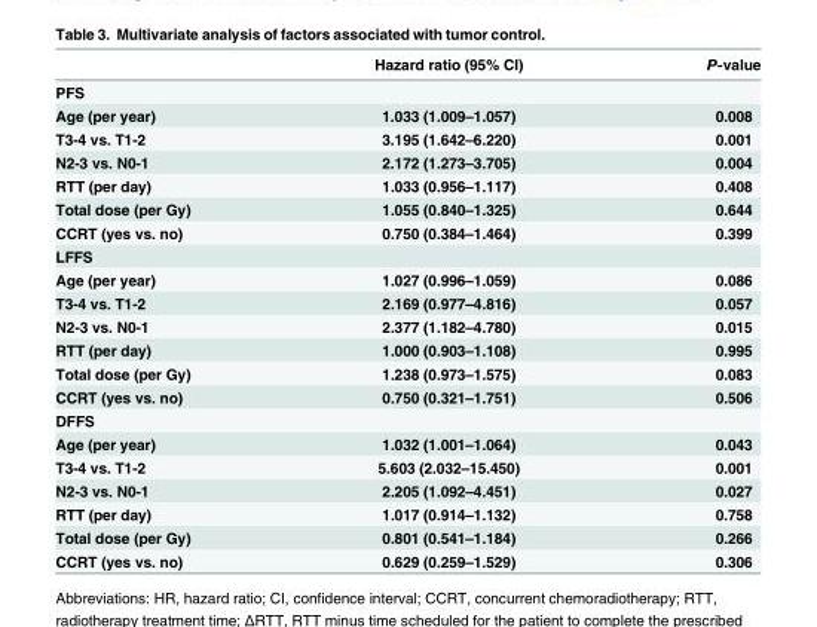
<table><thead><tr><td></td><td>Hazard ratio (95% CI)</td><td>P-value</td></tr></thead><tbody><tr><td colspan="3">PFS</td></tr><tr><td>Age (per year)</td><td>1.033 (1.009–1.057)</td><td>0.008</td></tr><tr><td>T3-4 vs. T1-2</td><td>3.195 (1.642–6.220)</td><td>0.001</td></tr><tr><td>N2-3 vs. N0-1</td><td>2.172 (1.273–3.705)</td><td>0.004</td></tr><tr><td>RTT (per day)</td><td>1.033 (0.956–1.117)</td><td>0.408</td></tr><tr><td>Total dose (per Gy)</td><td>1.055 (0.840–1.325)</td><td>0.644</td></tr><tr><td>CCRT (yes vs. no)</td><td>0.750 (0.384–1.464)</td><td>0.399</td></tr><tr><td colspan="3">LFFS</td></tr><tr><td>Age (per year)</td><td>1.027 (0.996–1.059)</td><td>0.086</td></tr><tr><td>T3-4 vs. T1-2</td><td>2.169 (0.977–4.816)</td><td>0.057</td></tr><tr><td>N2-3 vs. N0-1</td><td>2.377 (1.182–4.780)</td><td>0.015</td></tr><tr><td>RTT (per day)</td><td>1.000 (0.903–1.108)</td><td>0.995</td></tr><tr><td>Total dose (per Gy)</td><td>1.238 (0.973–1.575)</td><td>0.083</td></tr><tr><td>CCRT (yes vs. no)</td><td>0.750 (0.321–1.751)</td><td>0.506</td></tr><tr><td colspan="3">DFFS</td></tr><tr><td>Age (per year)</td><td>1.032 (1.001–1.064)</td><td>0.043</td></tr><tr><td>T3-4 vs. T1-2</td><td>5.603 (2.032–15.450)</td><td>0.001</td></tr><tr><td>N2-3 vs. N0-1</td><td>2.205 (1.092–4.451)</td><td>0.027</td></tr><tr><td>RTT (per day)</td><td>1.017 (0.914–1.132)</td><td>0.758</td></tr><tr><td>Total dose (per Gy)</td><td>0.801 (0.541–1.184)</td><td>0.266</td></tr><tr><td>CCRT (yes vs. no)</td><td>0.629 (0.259–1.529)</td><td>0.306</td></tr></tbody></table>